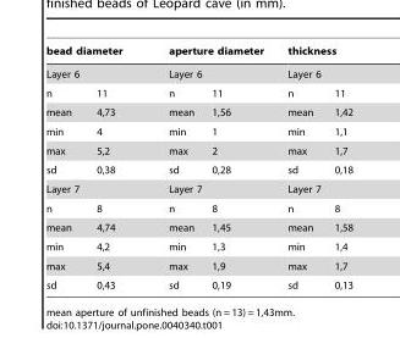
<table><thead><tr><td rowspan="2" colspan="2">bead diameter Layer 6</td><td rowspan="2" colspan="2">aperture diameter Layer 6</td><td rowspan="2" colspan="2">thickness Layer 6</td></tr><tr></tr><tr><td>n</td><td>11</td><td>n</td><td>11</td><td>n</td><td>11</td></tr></thead><tbody><tr><td>mean</td><td>4,73</td><td>mean</td><td>1,56</td><td>mean</td><td>1,42</td></tr><tr><td>min</td><td>4</td><td>min</td><td>1</td><td>min</td><td>1,1</td></tr><tr><td>max</td><td>5,2</td><td>max</td><td>2</td><td>max</td><td>1,7</td></tr><tr><td>sd</td><td>0,38</td><td>sd</td><td>0,28</td><td>sd</td><td>0,18</td></tr><tr><td colspan="2">Layer 7</td><td colspan="2">Layer 7</td><td colspan="2">Layer 7</td></tr><tr><td>n</td><td>8</td><td>n</td><td>8</td><td>n</td><td>8</td></tr><tr><td>mean</td><td>4,74</td><td>mean</td><td>1,45</td><td>mean</td><td>1,58</td></tr><tr><td>min</td><td>4,2</td><td>min</td><td>1,3</td><td>min</td><td>1,4</td></tr><tr><td>max</td><td>5,4</td><td>max</td><td>1,9</td><td>max</td><td>1,7</td></tr><tr><td>sd</td><td>0,43</td><td>sd</td><td>0,19</td><td>sd</td><td>0,13</td></tr></tbody></table>